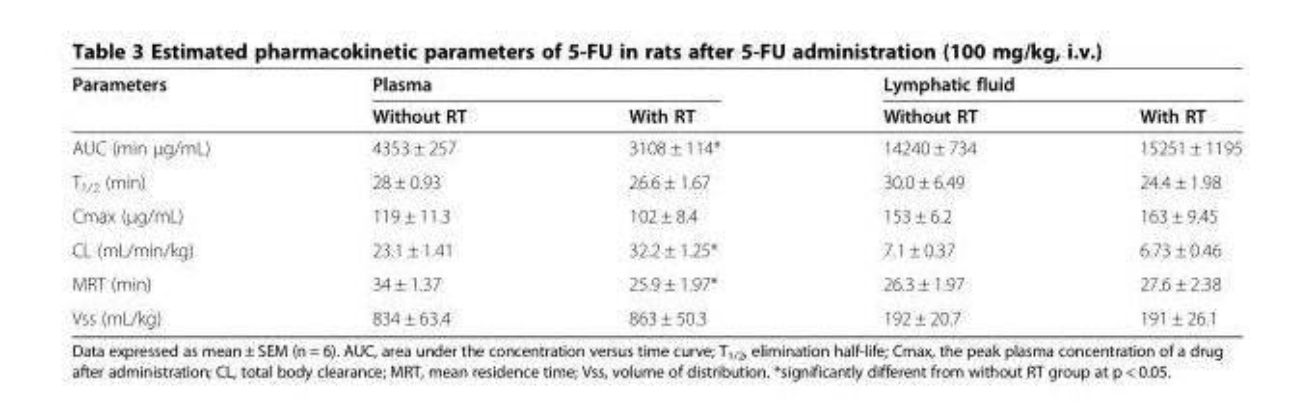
<table><thead><tr><td rowspan="2">Parameters</td><td colspan="2">Plasma</td><td colspan="2">Lymphatic fluid</td></tr><tr><td>Without RT</td><td>With RT</td><td>Without RT</td><td>With RT</td></tr></thead><tbody><tr><td>AUC (min μg/mL)</td><td>4353 ± 257</td><td>3108 ± 114*</td><td>14240 ± 734</td><td>15251 ± 1195</td></tr><tr><td>T<sub>1/2</sub> (min)</td><td>28 ± 0.93</td><td>26.6 ± 1.67</td><td>30.0 ± 6.49</td><td>24.4 ± 1.98</td></tr><tr><td>Cmax (μg/mL)</td><td>119 ± 11.3</td><td>102 ± 8.4</td><td>153 ± 6.2</td><td>163 ± 9.45</td></tr><tr><td>CL (mL/min/kg)</td><td>23.1 ± 1.41</td><td>32.2 ± 1.25*</td><td>7.1 ± 0.37</td><td>6.73 ± 0.46</td></tr><tr><td>MRT (min)</td><td>34 ± 1.37</td><td>25.9 ± 1.97*</td><td>26.3 ± 1.97</td><td>27.6 ± 2.38</td></tr><tr><td>Vss (mL/kg)</td><td>834 ± 63.4</td><td>863 ± 50.3</td><td>192 ± 20.7</td><td>191 ± 26.1</td></tr></tbody></table>